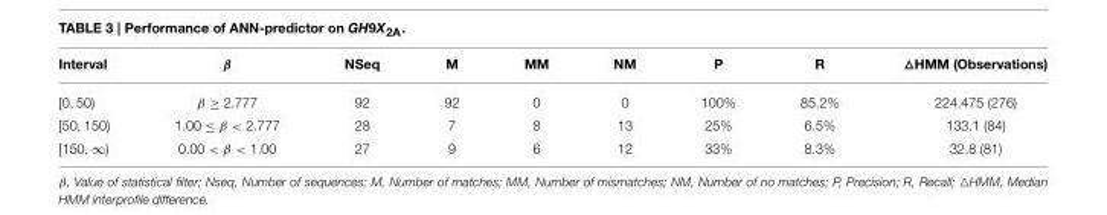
<table><thead><tr><td>Interval</td><td>β</td><td>NSeq</td><td>M</td><td>MM</td><td>NM</td><td>P</td><td>R</td><td>△HMM (Observations)</td></tr></thead><tbody><tr><td>[0, 50)</td><td>β ≥ 2.777</td><td>92</td><td>92</td><td>0</td><td>0</td><td>100%</td><td>85.2%</td><td>224.475 (276)</td></tr><tr><td>[50, 150)</td><td>1.00 ≤ β &lt; 2.777</td><td>28</td><td>7</td><td>8</td><td>13</td><td>25%</td><td>6.5%</td><td>133.1 (84)</td></tr><tr><td>[150, ∞)</td><td>0.00 &lt; β &lt; 1.00</td><td>27</td><td>9</td><td>6</td><td>12</td><td>33%</td><td>8.3%</td><td>32.8 (81)</td></tr></tbody></table>